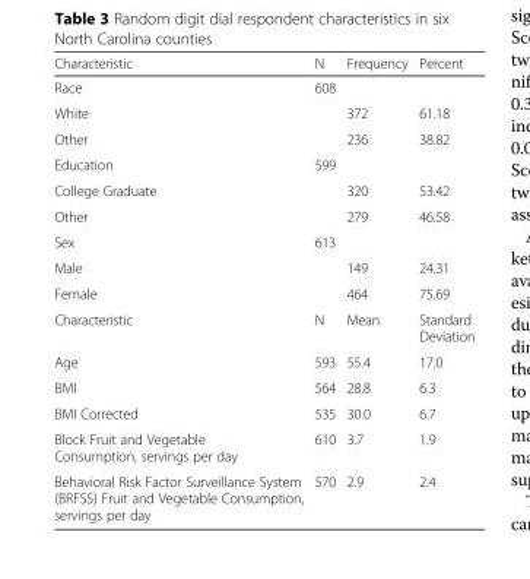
<table><thead><tr><td>Characteristic</td><td>N</td><td>Frequency</td><td>Percent</td></tr></thead><tbody><tr><td>Race</td><td>608</td><td></td><td></td></tr><tr><td>White</td><td></td><td>372</td><td>61.18</td></tr><tr><td>Other</td><td></td><td>236</td><td>38.82</td></tr><tr><td>Education</td><td>599</td><td></td><td></td></tr><tr><td>College Graduate</td><td></td><td>320</td><td>53.42</td></tr><tr><td>Other</td><td></td><td>279</td><td>46.58</td></tr><tr><td>Sex</td><td>613</td><td></td><td></td></tr><tr><td>Male</td><td></td><td>149</td><td>24.31</td></tr><tr><td>Female</td><td></td><td>464</td><td>75.69</td></tr><tr><td>Characteristic</td><td>N</td><td>Mean</td><td>Standard Deviation</td></tr><tr><td>Age</td><td>593</td><td>55.4</td><td>17.0</td></tr><tr><td>BMI</td><td>564</td><td>28.8</td><td>6.3</td></tr><tr><td>BMI Corrected</td><td>535</td><td>30.0</td><td>6.7</td></tr><tr><td>Block Fruit and Vegetable Consumption, servings per day</td><td>610</td><td>3.7</td><td>1.9</td></tr><tr><td>Behavioral Risk Factor Surveillance System (BRFSS) Fruit and Vegetable Consumption, servings per day</td><td>570</td><td>2.9</td><td>2.4</td></tr></tbody></table>